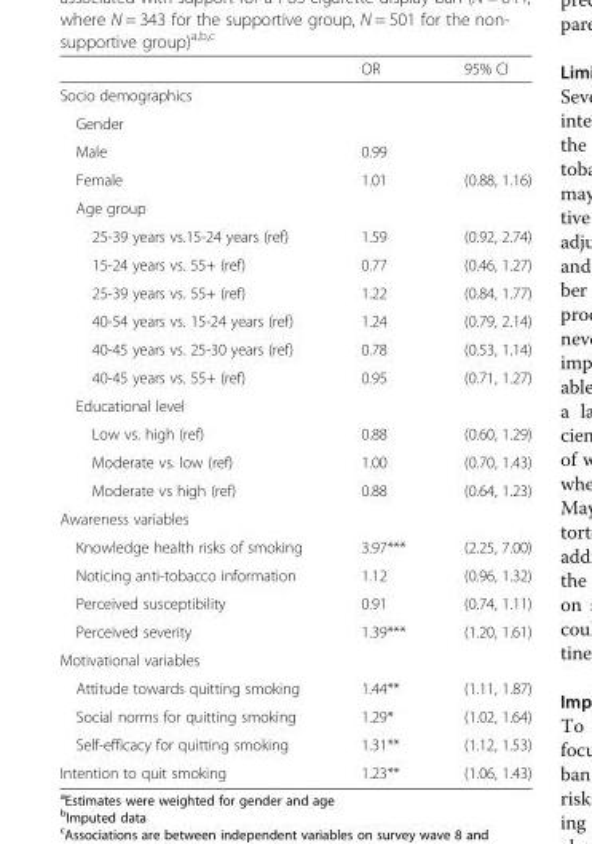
<table><thead><tr><td></td><td>OR</td><td>95% CI</td></tr></thead><tbody><tr><td colspan="3">Socio demographics</td></tr><tr><td colspan="3">Gender</td></tr><tr><td>Male</td><td>0.99</td><td></td></tr><tr><td>Female</td><td>1.01</td><td>(0.88, 1.16)</td></tr><tr><td colspan="3">Age group</td></tr><tr><td>25-39 years vs.15-24 years (ref)</td><td>1.59</td><td>(0.92, 2.74)</td></tr><tr><td>15-24 years vs. 55+ (ref)</td><td>0.77</td><td>(0.46, 1.27)</td></tr><tr><td>25-39 years vs. 55+ (ref)</td><td>1.22</td><td>(0.84, 1.77)</td></tr><tr><td>40-54 years vs. 15-24 years (ref)</td><td>1.24</td><td>(0.79, 2.14)</td></tr><tr><td>40-45 years vs. 25-30 years (ref)</td><td>0.78</td><td>(0.53, 1.14)</td></tr><tr><td>40-45 years vs. 55+ (ref)</td><td>0.95</td><td>(0.71, 1.27)</td></tr><tr><td colspan="3">Educational level</td></tr><tr><td>Low vs. high (ref)</td><td>0.88</td><td>(0.60, 1.29)</td></tr><tr><td>Moderate vs. low (ref)</td><td>1.00</td><td>(0.70, 1.43)</td></tr><tr><td>Moderate vs high (ref)</td><td>0.88</td><td>(0.64, 1.23)</td></tr><tr><td colspan="3">Awareness variables</td></tr><tr><td>Knowledge health risks of smoking</td><td>3.97***</td><td>(2.25, 7.00)</td></tr><tr><td>Noticing anti-tobacco information</td><td>1.12</td><td>(0.96, 1.32)</td></tr><tr><td>Perceived susceptibility</td><td>0.91</td><td>(0.74, 1.11)</td></tr><tr><td>Perceived severity</td><td>1.39***</td><td>(1.20, 1.61)</td></tr><tr><td colspan="3">Motivational variables</td></tr><tr><td>Attitude towards quitting smoking</td><td>1.44**</td><td>(1.11, 1.87)</td></tr><tr><td>Social norms for quitting smoking</td><td>1.29*</td><td>(1.02, 1.64)</td></tr><tr><td>Self-efficacy for quitting smoking</td><td>1.31**</td><td>(1.12, 1.53)</td></tr><tr><td>Intention to quit smoking</td><td>1.23**</td><td>(1.06, 1.43)</td></tr></tbody></table>